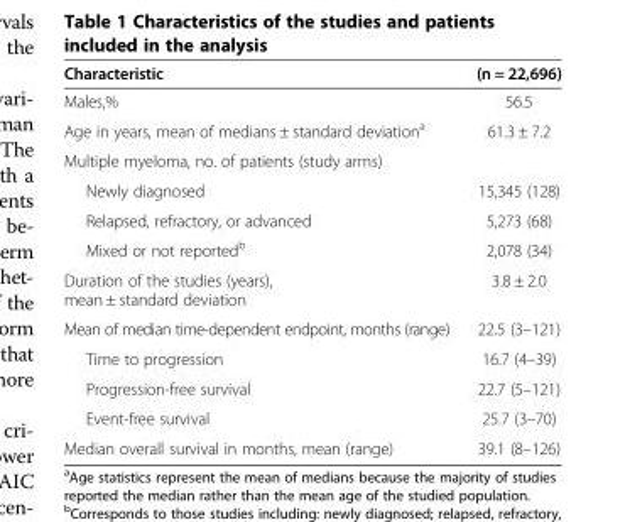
<table><thead><tr><td>Characteristic</td><td>(n = 22,696)</td></tr></thead><tbody><tr><td>Males,%</td><td>56.5</td></tr><tr><td>Age in years, mean of medians ± standard deviation<sup>a</sup></td><td>61.3 ± 7.2</td></tr><tr><td colspan="2">Multiple myeloma, no. of patients (study arms)</td></tr><tr><td>Newly diagnosed</td><td>15,345 (128)</td></tr><tr><td>Relapsed, refractory, or advanced</td><td>5,273 (68)</td></tr><tr><td>Mixed or not reported<sup>b</sup></td><td>2,078 (34)</td></tr><tr><td>Duration of the studies (years), mean ± standard deviation</td><td>3.8 ± 2.0</td></tr><tr><td>Mean of median time-dependent endpoint, months (range)</td><td>22.5 (3–121)</td></tr><tr><td>Time to progression</td><td>16.7 (4–39)</td></tr><tr><td>Progression-free survival</td><td>22.7 (5–121)</td></tr><tr><td>Event-free survival</td><td>25.7 (3–70)</td></tr><tr><td>Median overall survival in months, mean (range)</td><td>39.1 (8–126)</td></tr></tbody></table>